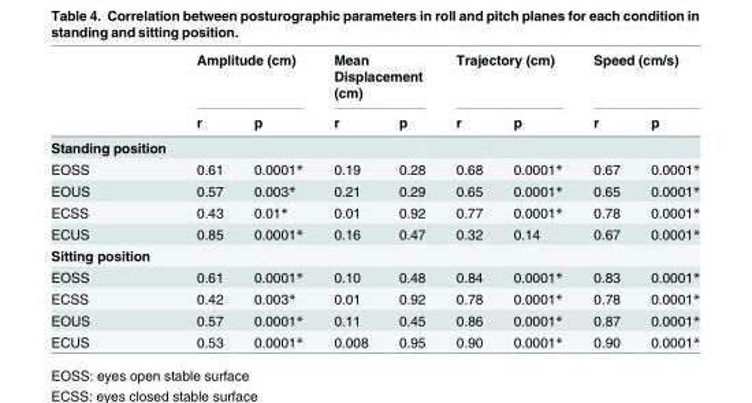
<table><thead><tr><td rowspan="2"></td><td colspan="2">Amplitude (cm)</td><td colspan="2">Mean Displacement (cm)</td><td colspan="2">Trajectory (cm)</td><td colspan="2">Speed (cm/s)</td></tr><tr><td>r</td><td>p</td><td>r</td><td>p</td><td>r</td><td>p</td><td>r</td><td>p</td></tr></thead><tbody><tr><td colspan="9">Standing position</td></tr><tr><td>EOSS</td><td>0.61</td><td>0.0001*</td><td>0.19</td><td>0.28</td><td>0.68</td><td>0.0001*</td><td>0.67</td><td>0.0001*</td></tr><tr><td>EOUS</td><td>0.57</td><td>0.003*</td><td>0.21</td><td>0.29</td><td>0.65</td><td>0.0001*</td><td>0.65</td><td>0.0001*</td></tr><tr><td>ECSS</td><td>0.43</td><td>0.01*</td><td>0.01</td><td>0.92</td><td>0.77</td><td>0.0001*</td><td>0.78</td><td>0.0001*</td></tr><tr><td>ECUS</td><td>0.85</td><td>0.0001*</td><td>0.16</td><td>0.47</td><td>0.32</td><td>0.14</td><td>0.67</td><td>0.0001*</td></tr><tr><td colspan="9">Sitting position</td></tr><tr><td>EOSS</td><td>0.61</td><td>0.0001*</td><td>0.10</td><td>0.48</td><td>0.84</td><td>0.0001*</td><td>0.83</td><td>0.0001*</td></tr><tr><td>ECSS</td><td>0.42</td><td>0.003*</td><td>0.01</td><td>0.92</td><td>0.78</td><td>0.0001*</td><td>0.78</td><td>0.0001*</td></tr><tr><td>EOUS</td><td>0.57</td><td>0.0001*</td><td>0.11</td><td>0.45</td><td>0.86</td><td>0.0001*</td><td>0.87</td><td>0.0001*</td></tr><tr><td>ECUS</td><td>0.53</td><td>0.0001*</td><td>0.008</td><td>0.95</td><td>0.90</td><td>0.0001*</td><td>0.90</td><td>0.0001*</td></tr></tbody></table>